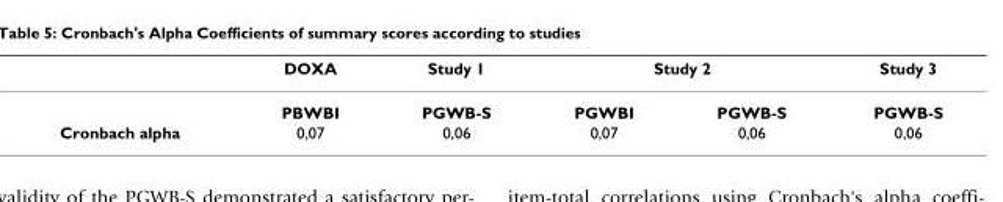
<table><thead><tr><td rowspan="2"></td><td rowspan="2">DOXA PBWBI</td><td rowspan="2">Study 1 PGWB-S</td><td colspan="2">Study 2</td><td rowspan="2">Study 3 PGWB-S</td></tr><tr><td>PGWBI</td><td>PGWB-S</td></tr></thead><tbody><tr><td>Cronbach alpha</td><td>0,07</td><td>0,06</td><td>0,07</td><td>0,06</td><td>0,06</td></tr></tbody></table>